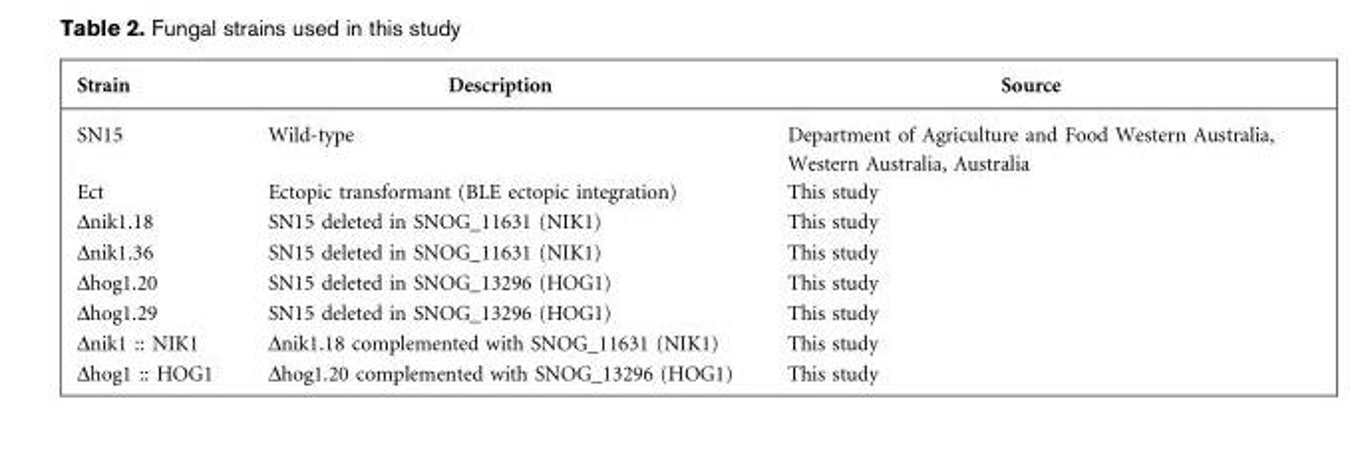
<table><thead><tr><td>Strain</td><td>Description</td><td>Source</td></tr></thead><tbody><tr><td>SN15</td><td>Wild-type</td><td>Department of Agriculture and Food Western Australia, Western Australia, Australia</td></tr><tr><td>Ect</td><td>Ectopic transformant (BLE ectopic integration)</td><td>This study</td></tr><tr><td>Δnik1.18</td><td>SN15 deleted in SNOG_11631 (NIK1)</td><td>This study</td></tr><tr><td>Δnik1.36</td><td>SN15 deleted in SNOG_11631 (NIK1)</td><td>This study</td></tr><tr><td>Δhog1.20</td><td>SN15 deleted in SNOG_13296 (HOG1)</td><td>This study</td></tr><tr><td>Δhog1.29</td><td>SN15 deleted in SNOG_13296 (HOG1)</td><td>This study</td></tr><tr><td>Δnik1 :: NIK1</td><td>Δnik1.18 complemented with SNOG_11631 (NIK1)</td><td>This study</td></tr><tr><td>Δhog1 :: HOG1</td><td>Δhog1.20 complemented with SNOG_13296 (HOG1)</td><td>This study</td></tr></tbody></table>